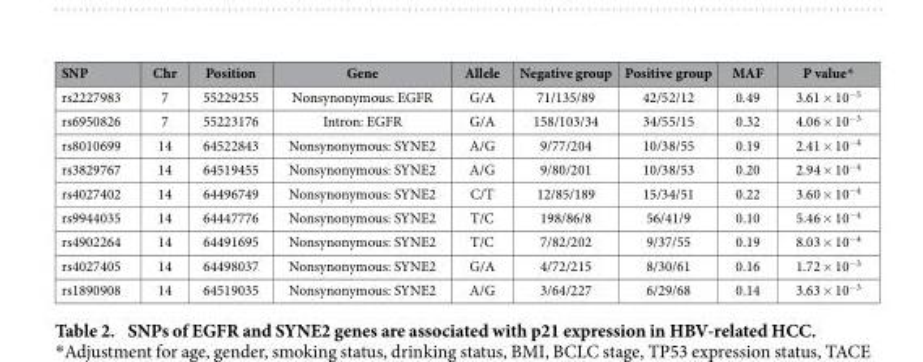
<table><thead><tr><td>SNP</td><td>Chr</td><td>Position</td><td>Gene</td><td>Allele</td><td>Negative group</td><td>Positive group</td><td>MAF</td><td>P value*</td></tr></thead><tbody><tr><td>rs2227983</td><td>7</td><td>55229255</td><td>Nonsynonymous: EGFR</td><td>G/A</td><td>71/135/89</td><td>42/52/12</td><td>0.49</td><td>3.61 × 10<sup>−5</sup></td></tr><tr><td>rs6950826</td><td>7</td><td>55223176</td><td>Intron: EGFR</td><td>G/A</td><td>158/103/34</td><td>34/55/15</td><td>0.32</td><td>4.06 × 10<sup>−3</sup></td></tr><tr><td>rs8010699</td><td>14</td><td>64522843</td><td>Nonsynonymous: SYNE2</td><td>A/G</td><td>9/77/204</td><td>10/38/55</td><td>0.19</td><td>2.41 × 10<sup>−4</sup></td></tr><tr><td>rs3829767</td><td>14</td><td>64519455</td><td>Nonsynonymous: SYNE2</td><td>A/G</td><td>9/80/201</td><td>10/38/53</td><td>0.20</td><td>2.94 × 10<sup>−4</sup></td></tr><tr><td>rs4027402</td><td>14</td><td>64496749</td><td>Nonsynonymous: SYNE2</td><td>C/T</td><td>12/85/189</td><td>15/34/51</td><td>0.22</td><td>3.60 × 10<sup>−4</sup></td></tr><tr><td>rs9944035</td><td>14</td><td>64447776</td><td>Nonsynonymous: SYNE2</td><td>T/C</td><td>198/86/8</td><td>56/41/9</td><td>0.10</td><td>5.46 × 10<sup>−4</sup></td></tr><tr><td>rs4902264</td><td>14</td><td>64491695</td><td>Nonsynonymous: SYNE2</td><td>T/C</td><td>7/82/202</td><td>9/37/55</td><td>0.19</td><td>8.03 × 10<sup>−4</sup></td></tr><tr><td>rs4027405</td><td>14</td><td>64498037</td><td>Nonsynonymous: SYNE2</td><td>G/A</td><td>4/72/215</td><td>8/30/61</td><td>0.16</td><td>1.72 × 10<sup>−3</sup></td></tr><tr><td>rs1890908</td><td>14</td><td>64519035</td><td>Nonsynonymous: SYNE2</td><td>A/G</td><td>3/64/227</td><td>6/29/68</td><td>0.14</td><td>3.63 × 10<sup>−3</sup></td></tr></tbody></table>